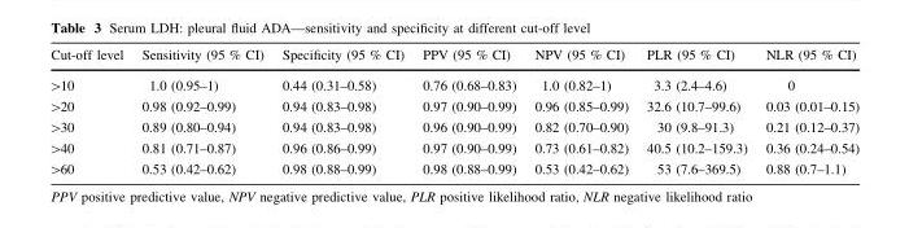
<table><thead><tr><td>Cut-off level</td><td>Sensitivity (95 % CI)</td><td>Specificity (95 % CI)</td><td>PPV (95 % CI)</td><td>NPV (95 % CI)</td><td>PLR (95 % CI)</td><td>NLR (95 % CI)</td></tr></thead><tbody><tr><td>&gt;10</td><td>1.0 (0.95–1)</td><td>0.44 (0.31–0.58)</td><td>0.76 (0.68–0.83)</td><td>1.0 (0.82–1)</td><td>3.3 (2.4–4.6)</td><td>0</td></tr><tr><td>&gt;20</td><td>0.98 (0.92–0.99)</td><td>0.94 (0.83–0.98)</td><td>0.97 (0.90–0.99)</td><td>0.96 (0.85–0.99)</td><td>32.6 (10.7–99.6)</td><td>0.03 (0.01–0.15)</td></tr><tr><td>&gt;30</td><td>0.89 (0.80–0.94)</td><td>0.94 (0.83–0.98)</td><td>0.96 (0.90–0.99)</td><td>0.82 (0.70–0.90)</td><td>30 (9.8–91.3)</td><td>0.21 (0.12–0.37)</td></tr><tr><td>&gt;40</td><td>0.81 (0.71–0.87)</td><td>0.96 (0.86–0.99)</td><td>0.97 (0.90–0.99)</td><td>0.73 (0.61–0.82)</td><td>40.5 (10.2–159.3)</td><td>0.36 (0.24–0.54)</td></tr><tr><td>&gt;60</td><td>0.53 (0.42–0.62)</td><td>0.98 (0.88–0.99)</td><td>0.98 (0.88–0.99)</td><td>0.53 (0.42–0.62)</td><td>53 (7.6–369.5)</td><td>0.88 (0.7–1.1)</td></tr></tbody></table>